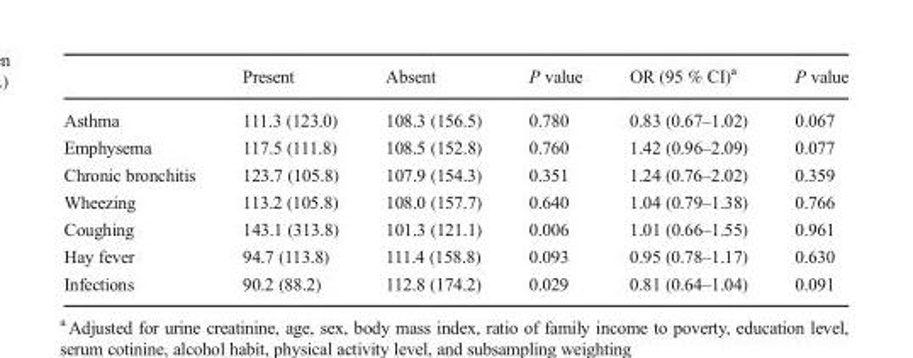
<table><thead><tr><td></td><td>Present</td><td>Absent</td><td>P value</td><td>OR (95 % CI)<sup>a</sup></td><td>P value</td></tr></thead><tbody><tr><td>Asthma</td><td>111.3 (123.0)</td><td>108.3 (156.5)</td><td>0.780</td><td>0.83 (0.67–1.02)</td><td>0.067</td></tr><tr><td>Emphysema</td><td>117.5 (111.8)</td><td>108.5 (152.8)</td><td>0.760</td><td>1.42 (0.96–2.09)</td><td>0.077</td></tr><tr><td>Chronic bronchitis</td><td>123.7 (105.8)</td><td>107.9 (154.3)</td><td>0.351</td><td>1.24 (0.76–2.02)</td><td>0.359</td></tr><tr><td>Wheezing</td><td>113.2 (105.8)</td><td>108.0 (157.7)</td><td>0.640</td><td>1.04 (0.79–1.38)</td><td>0.766</td></tr><tr><td>Coughing</td><td>143.1 (313.8)</td><td>101.3 (121.1)</td><td>0.006</td><td>1.01 (0.66–1.55)</td><td>0.961</td></tr><tr><td>Hay fever</td><td>94.7 (113.8)</td><td>111.4 (158.8)</td><td>0.093</td><td>0.95 (0.78–1.17)</td><td>0.630</td></tr><tr><td>Infections</td><td>90.2 (88.2)</td><td>112.8 (174.2)</td><td>0.029</td><td>0.81 (0.64–1.04)</td><td>0.091</td></tr></tbody></table>